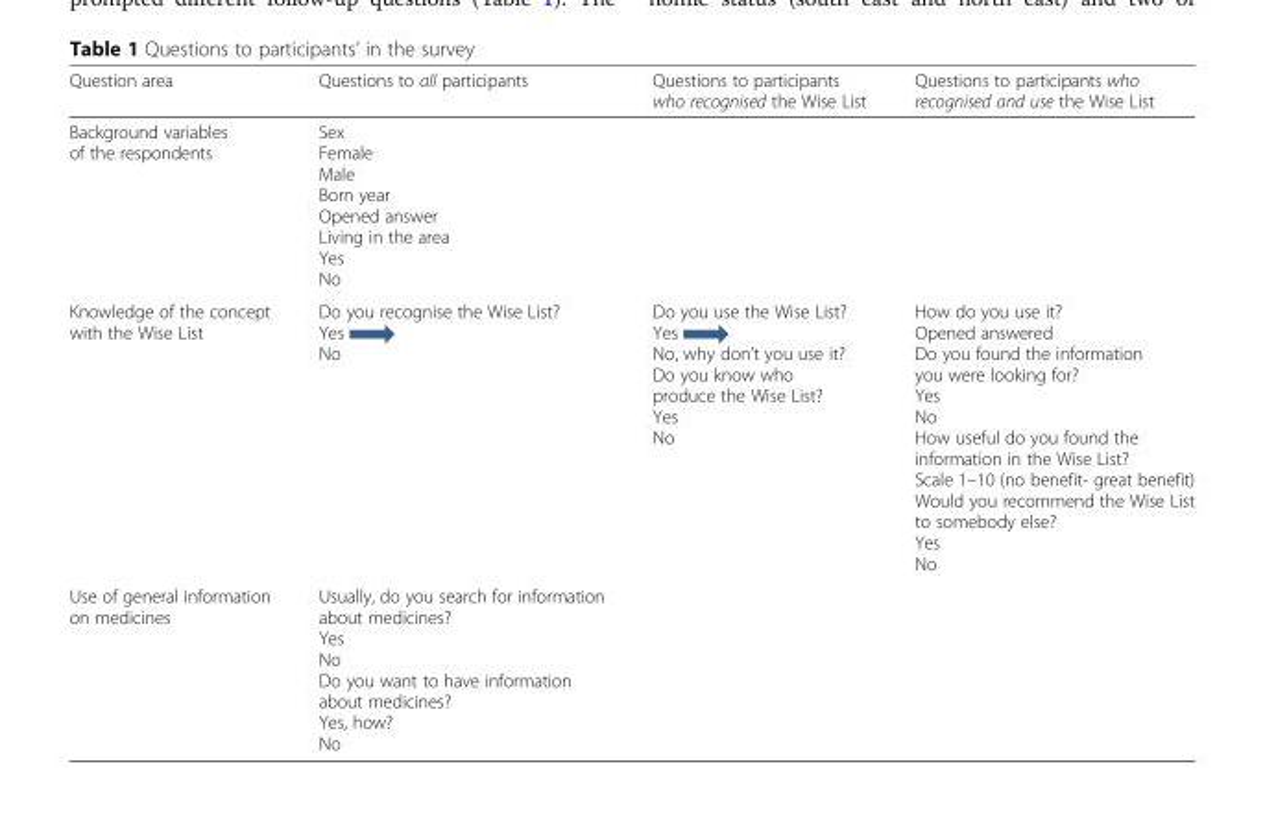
<table><thead><tr><td>Question area</td><td>Questions to all participants</td><td>Questions to participants who recognised the Wise List</td><td>Questions to participants who recognised and use the Wise List</td></tr></thead><tbody><tr><td>Background variables of the respondents</td><td>Sex Female Male Born year Opened answer Living in the area Yes No</td><td></td><td></td></tr><tr><td>Knowledge of the concept with the Wise List</td><td>Do you recognise the Wise List? Yes No</td><td>Do you use the Wise List? Yes No, why don’t you use it? Do you know who produce the Wise List? Yes No</td><td>How do you use it? Opened answered Do you found the information you were looking for? Yes No How useful do you found the information in the Wise List? Scale 1–10 (no benefit- great benefit) Would you recommend the Wise List to somebody else? Yes No</td></tr><tr><td>Use of general information on medicines</td><td>Usually, do you search for information about medicines? Yes No Do you want to have information about medicines? Yes, how? No</td><td></td><td></td></tr></tbody></table>